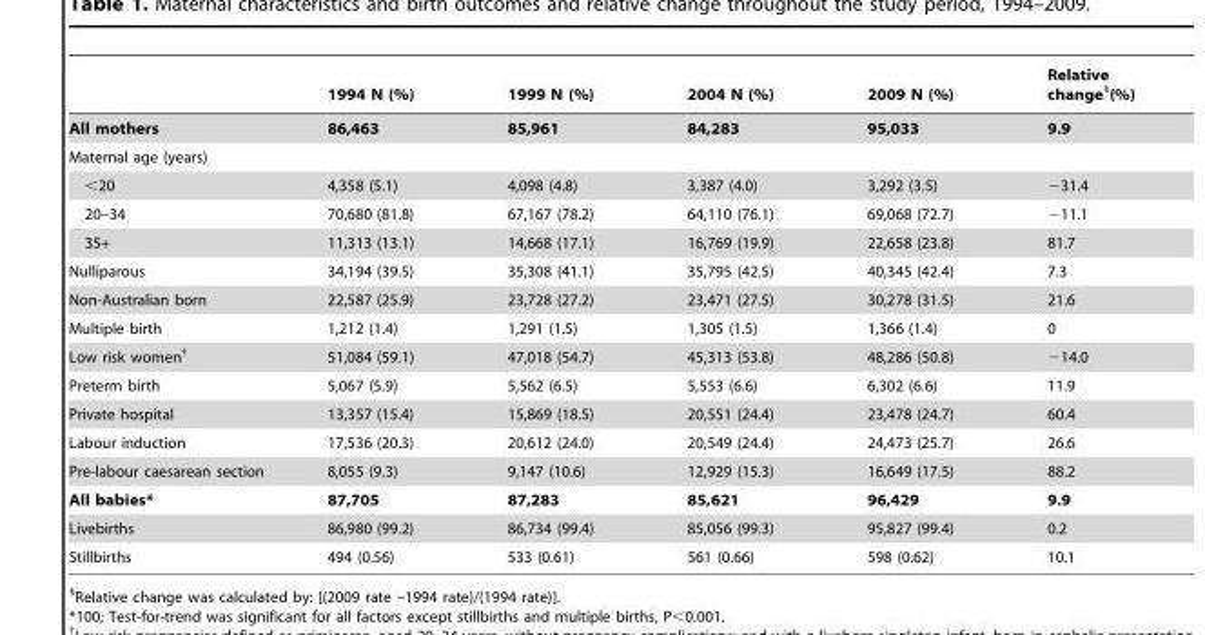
<table><thead><tr><td></td><td>1994 N (%)</td><td>1999 N (%)</td><td>2004 N (%)</td><td>2009 N (%)</td><td>Relative change§(%)</td></tr></thead><tbody><tr><td>All mothers</td><td>86,463</td><td>85,961</td><td>84,283</td><td>95,033</td><td>9.9</td></tr><tr><td colspan="6">Maternal age (years)</td></tr><tr><td>&lt;20</td><td>4,358 (5.1)</td><td>4,098 (4.8)</td><td>3,387 (4.0)</td><td>3,292 (3.5)</td><td>−31.4</td></tr><tr><td>20–34</td><td>70,680 (81.8)</td><td>67,167 (78.2)</td><td>64,110 (76.1)</td><td>69,068 (72.7)</td><td>−11.1</td></tr><tr><td>35+</td><td>11,313 (13.1)</td><td>14,668 (17.1)</td><td>16,769 (19.9)</td><td>22,658 (23.8)</td><td>81.7</td></tr><tr><td>Nulliparous</td><td>34,194 (39.5)</td><td>35,308 (41.1)</td><td>35,795 (42.5)</td><td>40,345 (42.4)</td><td>7.3</td></tr><tr><td>Non-Australian born</td><td>22,587 (25.9)</td><td>23,728 (27.2)</td><td>23,471 (27.5)</td><td>30,278 (31.5)</td><td>21.6</td></tr><tr><td>Multiple birth</td><td>1,212 (1.4)</td><td>1,291 (1.5)</td><td>1,305 (1.5)</td><td>1,366 (1.4)</td><td>0</td></tr><tr><td>Low risk women†</td><td>51,084 (59.1)</td><td>47,018 (54.7)</td><td>45,313 (53.8)</td><td>48,286 (50.8)</td><td>−14.0</td></tr><tr><td>Preterm birth</td><td>5,067 (5.9)</td><td>5,562 (6.5)</td><td>5,553 (6.6)</td><td>6,302 (6.6)</td><td>11.9</td></tr><tr><td>Private hospital</td><td>13,357 (15.4)</td><td>15,869 (18.5)</td><td>20,551 (24.4)</td><td>23,478 (24.7)</td><td>60.4</td></tr><tr><td>Labour induction</td><td>17,536 (20.3)</td><td>20,612 (24.0)</td><td>20,549 (24.4)</td><td>24,473 (25.7)</td><td>26.6</td></tr><tr><td>Pre-labour caesarean section</td><td>8,055 (9.3)</td><td>9,147 (10.6)</td><td>12,929 (15.3)</td><td>16,649 (17.5)</td><td>88.2</td></tr><tr><td>All babies*</td><td>87,705</td><td>87,283</td><td>85,621</td><td>96,429</td><td>9.9</td></tr><tr><td>Livebirths</td><td>86,980 (99.2)</td><td>86,734 (99.4)</td><td>85,056 (99.3)</td><td>95,827 (99.4)</td><td>0.2</td></tr><tr><td>Stillbirths</td><td>494 (0.56)</td><td>533 (0.61)</td><td>561 (0.66)</td><td>598 (0.62)</td><td>10.1</td></tr></tbody></table>